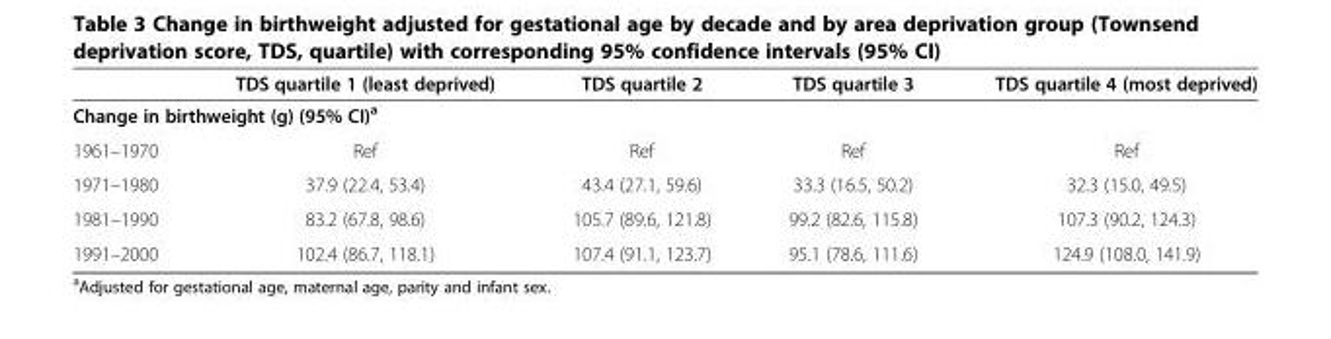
<table><thead><tr><td></td><td>TDS quartile 1 (least deprived)</td><td>TDS quartile 2</td><td>TDS quartile 3</td><td>TDS quartile 4 (most deprived)</td></tr></thead><tbody><tr><td colspan="5">Change in birthweight (g) (95% CI)<sup>a</sup></td></tr><tr><td>1961–1970</td><td>Ref</td><td>Ref</td><td>Ref</td><td>Ref</td></tr><tr><td>1971–1980</td><td>37.9 (22.4, 53.4)</td><td>43.4 (27.1, 59.6)</td><td>33.3 (16.5, 50.2)</td><td>32.3 (15.0, 49.5)</td></tr><tr><td>1981–1990</td><td>83.2 (67.8, 98.6)</td><td>105.7 (89.6, 121.8)</td><td>99.2 (82.6, 115.8)</td><td>107.3 (90.2, 124.3)</td></tr><tr><td>1991–2000</td><td>102.4 (86.7, 118.1)</td><td>107.4 (91.1, 123.7)</td><td>95.1 (78.6, 111.6)</td><td>124.9 (108.0, 141.9)</td></tr></tbody></table>